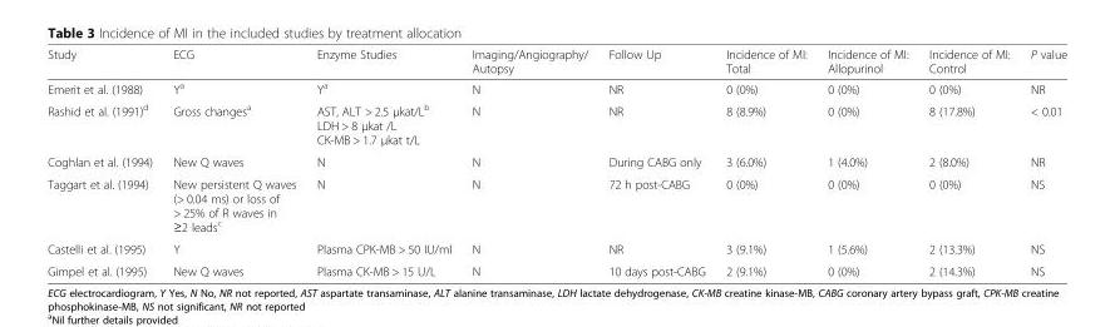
<table><thead><tr><td>Study</td><td>ECG</td><td>Enzyme Studies</td><td>Imaging/Angiography/ Autopsy</td><td>Follow Up</td><td>Incidence of MI: Total</td><td>Incidence of MI: Allopurinol</td><td>Incidence of MI: Control</td><td>P value</td></tr></thead><tbody><tr><td>Emerit et al. (1988)</td><td>Y<sup>a</sup></td><td>Y<sup>a</sup></td><td>N</td><td>NR</td><td>0 (0%)</td><td>0 (0%)</td><td>0 (0%)</td><td>NR</td></tr><tr><td>Rashid et al. (1991)<sup>d</sup></td><td>Gross changes<sup>a</sup></td><td>AST, ALT &gt; 2.5 μkat/L<sup>b</sup> LDH &gt; 8 μkat /L CK-MB &gt; 1.7 μkat t/L</td><td>N</td><td>NR</td><td>8 (8.9%)</td><td>0 (0%)</td><td>8 (17.8%)</td><td>&lt; 0.01</td></tr><tr><td>Coghlan et al. (1994)</td><td>New Q waves</td><td>N</td><td>N</td><td>During CABG only</td><td>3 (6.0%)</td><td>1 (4.0%)</td><td>2 (8.0%)</td><td>NR</td></tr><tr><td>Taggart et al. (1994)</td><td>New persistent Q waves (&gt; 0.04 ms) or loss of &gt; 25% of R waves in ≥2 leads<sup>c</sup></td><td>N</td><td>N</td><td>72 h post-CABG</td><td>0 (0%)</td><td>0 (0%)</td><td>0 (0%)</td><td>NS</td></tr><tr><td>Castelli et al. (1995)</td><td>Y</td><td>Plasma CPK-MB &gt; 50 IU/ml</td><td>N</td><td>NR</td><td>3 (9.1%)</td><td>1 (5.6%)</td><td>2 (13.3%)</td><td>NS</td></tr><tr><td>Gimpel et al. (1995)</td><td>New Q waves</td><td>Plasma CK-MB &gt; 15 U/L</td><td>N</td><td>10 days post-CABG</td><td>2 (9.1%)</td><td>0 (0%)</td><td>2 (14.3%)</td><td>NS</td></tr></tbody></table>